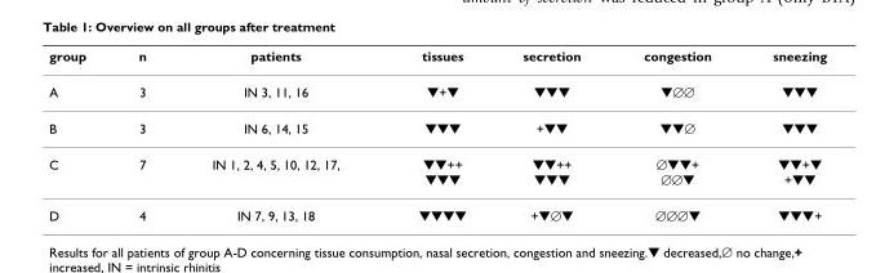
<table><thead><tr><td>group</td><td>n</td><td>patients</td><td>tissues</td><td>secretion</td><td>congestion</td><td>sneezing</td></tr></thead><tbody><tr><td>A</td><td>3</td><td>IN 3, 11, 16</td><td>▼+▼</td><td>▼▼▼</td><td>▼∅∅</td><td>▼▼▼</td></tr><tr><td>B</td><td>3</td><td>IN 6, 14, 15</td><td>▼▼▼</td><td>+▼▼</td><td>▼▼∅</td><td>▼▼▼</td></tr><tr><td>C</td><td>7</td><td>IN 1, 2, 4, 5, 10, 12, 17,</td><td>▼▼++ ▼▼▼</td><td>▼▼++ ▼▼▼</td><td>∅▼▼+ ∅∅▼</td><td>▼▼+▼ +▼▼</td></tr><tr><td>D</td><td>4</td><td>IN 7, 9, 13, 18</td><td>▼▼▼▼</td><td>+▼∅▼</td><td>∅∅∅▼</td><td>▼▼▼+</td></tr></tbody></table>